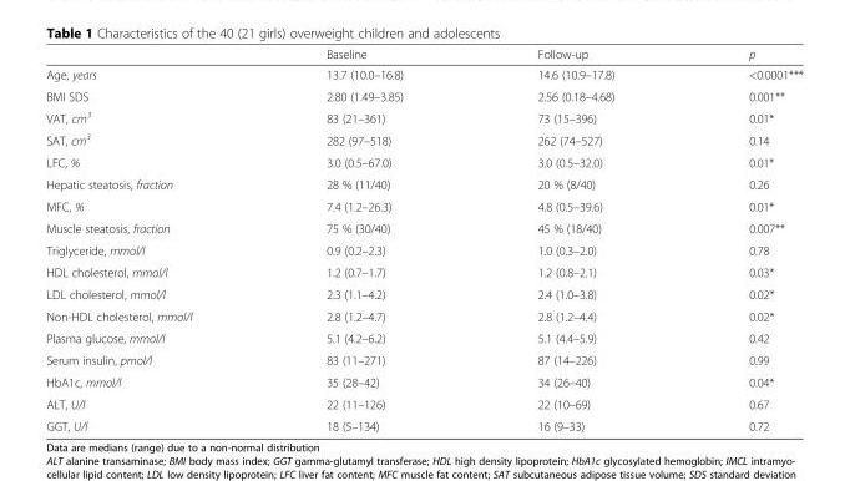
<table><thead><tr><td></td><td>Baseline</td><td>Follow-up</td><td>p</td></tr></thead><tbody><tr><td>Age, years</td><td>13.7 (10.0–16.8)</td><td>14.6 (10.9–17.8)</td><td>&lt;0.0001***</td></tr><tr><td>BMI SDS</td><td>2.80 (1.49–3.85)</td><td>2.56 (0.18–4.68)</td><td>0.001**</td></tr><tr><td>VAT, cm<sup>3</sup></td><td>83 (21–361)</td><td>73 (15–396)</td><td>0.01*</td></tr><tr><td>SAT, cm<sup>3</sup></td><td>282 (97–518)</td><td>262 (74–527)</td><td>0.14</td></tr><tr><td>LFC, %</td><td>3.0 (0.5–67.0)</td><td>3.0 (0.5–32.0)</td><td>0.01*</td></tr><tr><td>Hepatic steatosis, fraction</td><td>28 % (11/40)</td><td>20 % (8/40)</td><td>0.26</td></tr><tr><td>MFC, %</td><td>7.4 (1.2–26.3)</td><td>4.8 (0.5–39.6)</td><td>0.01*</td></tr><tr><td>Muscle steatosis, fraction</td><td>75 % (30/40)</td><td>45 % (18/40)</td><td>0.007**</td></tr><tr><td>Triglyceride, mmol/l</td><td>0.9 (0.2–2.3)</td><td>1.0 (0.3–2.0)</td><td>0.78</td></tr><tr><td>HDL cholesterol, mmol/l</td><td>1.2 (0.7–1.7)</td><td>1.2 (0.8–2.1)</td><td>0.03*</td></tr><tr><td>LDL cholesterol, mmol/l</td><td>2.3 (1.1–4.2)</td><td>2.4 (1.0–3.8)</td><td>0.02*</td></tr><tr><td>Non-HDL cholesterol, mmol/l</td><td>2.8 (1.2–4.7)</td><td>2.8 (1.2–4.4)</td><td>0.02*</td></tr><tr><td>Plasma glucose, mmol/l</td><td>5.1 (4.2–6.2)</td><td>5.1 (4.4–5.9)</td><td>0.42</td></tr><tr><td>Serum insulin, pmol/l</td><td>83 (11–271)</td><td>87 (14–226)</td><td>0.99</td></tr><tr><td>HbA1c, mmol/l</td><td>35 (28–42)</td><td>34 (26–40)</td><td>0.04*</td></tr><tr><td>ALT, U/l</td><td>22 (11–126)</td><td>22 (10–69)</td><td>0.67</td></tr><tr><td>GGT, U/l</td><td>18 (5–134)</td><td>16 (9–33)</td><td>0.72</td></tr></tbody></table>